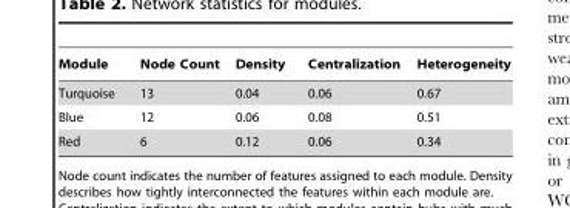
<table><thead><tr><td>Module</td><td>Node Count</td><td>Density</td><td>Centralization</td><td>Heterogeneity</td></tr></thead><tbody><tr><td>Turquoise</td><td>13</td><td>0.04</td><td>0.06</td><td>0.67</td></tr><tr><td>Blue</td><td>12</td><td>0.06</td><td>0.08</td><td>0.51</td></tr><tr><td>Red</td><td>6</td><td>0.12</td><td>0.06</td><td>0.34</td></tr></tbody></table>